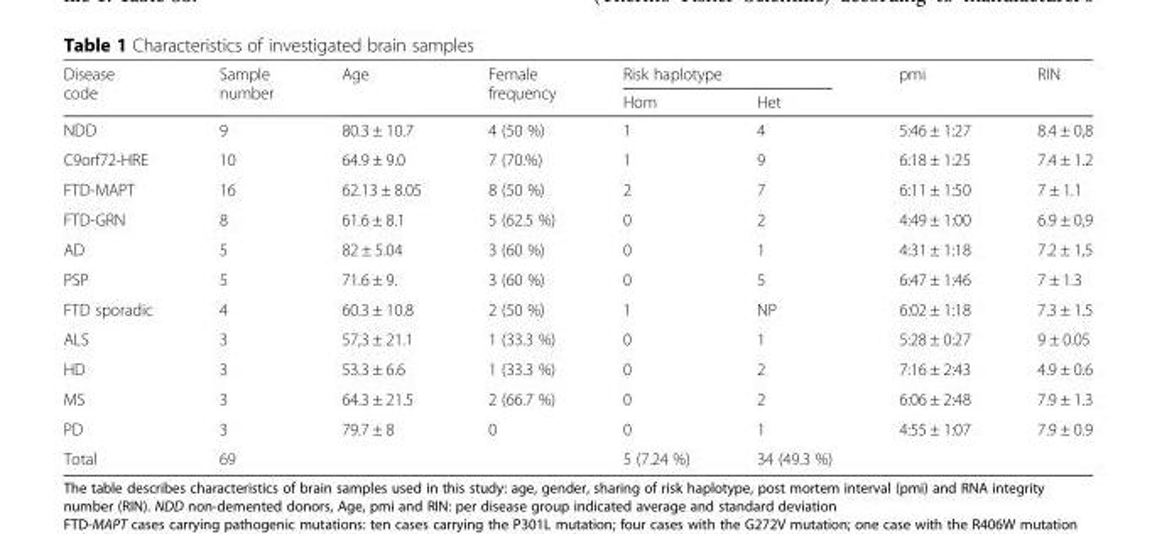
<table><thead><tr><td rowspan="2">Disease code</td><td rowspan="2">Sample number</td><td rowspan="2">Age</td><td rowspan="2">Female frequency</td><td colspan="2">Risk haplotype</td><td rowspan="2">pmi</td><td rowspan="2">RIN</td></tr><tr><td>Hom</td><td>Het</td></tr></thead><tbody><tr><td>NDD</td><td>9</td><td>80.3 ± 10.7</td><td>4 (50 %)</td><td>1</td><td>4</td><td>5:46 ± 1:27</td><td>8.4 ± 0,8</td></tr><tr><td>C9orf72-HRE</td><td>10</td><td>64.9 ± 9.0</td><td>7 (70.%)</td><td>1</td><td>9</td><td>6:18 ± 1:25</td><td>7.4 ± 1.2</td></tr><tr><td>FTD-MAPT</td><td>16</td><td>62.13 ± 8.05</td><td>8 (50 %)</td><td>2</td><td>7</td><td>6:11 ± 1:50</td><td>7 ± 1.1</td></tr><tr><td>FTD-GRN</td><td>8</td><td>61.6 ± 8.1</td><td>5 (62.5 %)</td><td>0</td><td>2</td><td>4:49 ± 1:00</td><td>6.9 ± 0,9</td></tr><tr><td>AD</td><td>5</td><td>82 ± 5.04</td><td>3 (60 %)</td><td>0</td><td>1</td><td>4:31 ± 1:18</td><td>7.2 ± 1,5</td></tr><tr><td>PSP</td><td>5</td><td>71.6 ± 9.</td><td>3 (60 %)</td><td>0</td><td>5</td><td>6:47 ± 1:46</td><td>7 ± 1.3</td></tr><tr><td>FTD sporadic</td><td>4</td><td>60.3 ± 10.8</td><td>2 (50 %)</td><td>1</td><td>NP</td><td>6:02 ± 1:18</td><td>7.3 ± 1.5</td></tr><tr><td>ALS</td><td>3</td><td>57,3 ± 21.1</td><td>1 (33.3 %)</td><td>0</td><td>1</td><td>5:28 ± 0:27</td><td>9 ± 0.05</td></tr><tr><td>HD</td><td>3</td><td>53.3 ± 6.6</td><td>1 (33.3 %)</td><td>0</td><td>2</td><td>7:16 ± 2:43</td><td>4.9 ± 0.6</td></tr><tr><td>MS</td><td>3</td><td>64.3 ± 21.5</td><td>2 (66.7 %)</td><td>0</td><td>2</td><td>6:06 ± 2:48</td><td>7.9 ± 1.3</td></tr><tr><td>PD</td><td>3</td><td>79.7 ± 8</td><td>0</td><td>0</td><td>1</td><td>4:55 ± 1:07</td><td>7.9 ± 0.9</td></tr><tr><td>Total</td><td>69</td><td></td><td></td><td>5 (7.24 %)</td><td>34 (49.3 %)</td><td></td><td></td></tr></tbody></table>